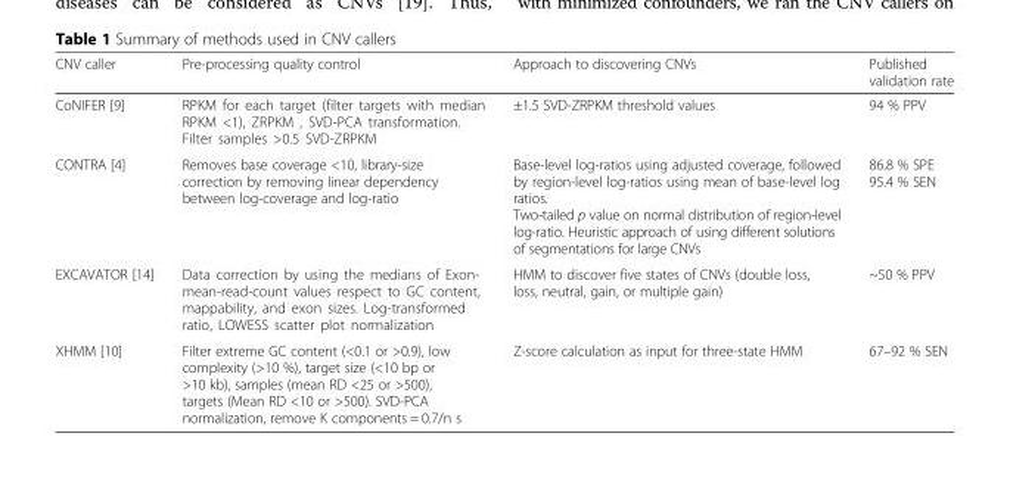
<table><thead><tr><td>CNV caller</td><td>Pre-processing quality control</td><td>Approach to discovering CNVs</td><td>Published validation rate</td></tr></thead><tbody><tr><td>CoNIFER [9]</td><td>RPKM for each target (filter targets with median RPKM &lt;1), ZRPKM , SVD-PCA transformation. Filter samples &gt;0.5 SVD-ZRPKM</td><td>±1.5 SVD-ZRPKM threshold values</td><td>94 % PPV</td></tr><tr><td>CONTRA [4]</td><td>Removes base coverage &lt;10, library-size correction by removing linear dependency between log-coverage and log-ratio</td><td>Base-level log-ratios using adjusted coverage, followed by region-level log-ratios using mean of base-level log ratios. Two-tailed p value on normal distribution of region-level log-ratio. Heuristic approach of using different solutions of segmentations for large CNVs</td><td>86.8 % SPE 95.4 % SEN</td></tr><tr><td>EXCAVATOR [14]</td><td>Data correction by using the medians of Exon- mean-read-count values respect to GC content, mappability, and exon sizes. Log-transformed ratio, LOWESS scatter plot normalization</td><td>HMM to discover five states of CNVs (double loss, loss, neutral, gain, or multiple gain)</td><td>~50 % PPV</td></tr><tr><td>XHMM [10]</td><td>Filter extreme GC content (&lt;0.1 or &gt;0.9), low complexity (&gt;10 %), target size (&lt;10 bp or &gt;10 kb), samples (mean RD &lt;25 or &gt;500), targets (Mean RD &lt;10 or &gt;500). SVD-PCA normalization, remove K components = 0.7/n s</td><td>Z-score calculation as input for three-state HMM</td><td>67–92 % SEN</td></tr></tbody></table>